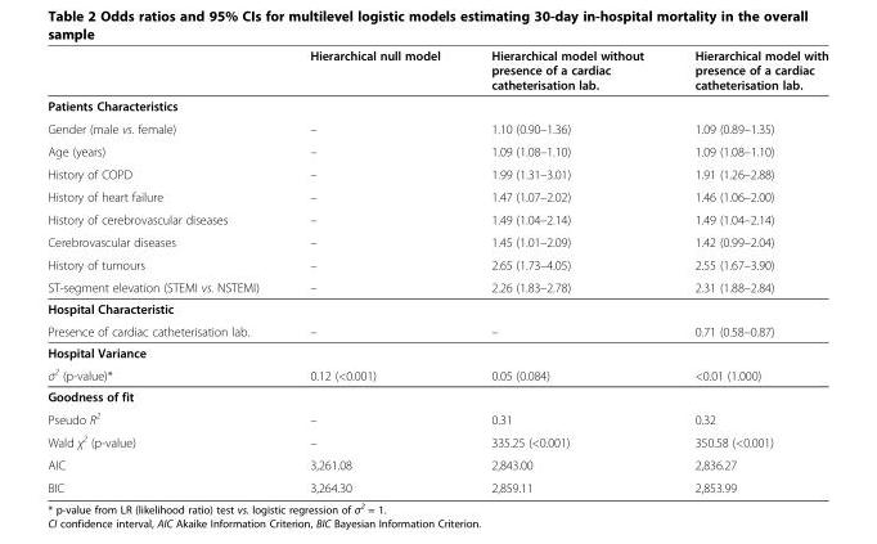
<table><thead><tr><td></td><td>Hierarchical null model</td><td>Hierarchical model without presence of a cardiac catheterisation lab.</td><td>Hierarchical model with presence of a cardiac catheterisation lab.</td></tr></thead><tbody><tr><td colspan="4">Patients Characteristics</td></tr><tr><td>Gender (male vs. female)</td><td>–</td><td>1.10 (0.90–1.36)</td><td>1.09 (0.89–1.35)</td></tr><tr><td>Age (years)</td><td>–</td><td>1.09 (1.08–1.10)</td><td>1.09 (1.08–1.10)</td></tr><tr><td>History of COPD</td><td>–</td><td>1.99 (1.31–3.01)</td><td>1.91 (1.26–2.88)</td></tr><tr><td>History of heart failure</td><td>–</td><td>1.47 (1.07–2.02)</td><td>1.46 (1.06–2.00)</td></tr><tr><td>History of cerebrovascular diseases</td><td>–</td><td>1.49 (1.04–2.14)</td><td>1.49 (1.04–2.14)</td></tr><tr><td>Cerebrovascular diseases</td><td>–</td><td>1.45 (1.01–2.09)</td><td>1.42 (0.99–2.04)</td></tr><tr><td>History of tumours</td><td>–</td><td>2.65 (1.73–4.05)</td><td>2.55 (1.67–3.90)</td></tr><tr><td>ST-segment elevation (STEMI vs. NSTEMI)</td><td>–</td><td>2.26 (1.83–2.78)</td><td>2.31 (1.88–2.84)</td></tr><tr><td colspan="4">Hospital Characteristic</td></tr><tr><td>Presence of cardiac catheterisation lab.</td><td>–</td><td>–</td><td>0.71 (0.58–0.87)</td></tr><tr><td colspan="4">Hospital Variance</td></tr><tr><td>σ<sup>2</sup> (p-value)*</td><td>0.12 (&lt;0.001)</td><td>0.05 (0.084)</td><td>&lt;0.01 (1.000)</td></tr><tr><td colspan="4">Goodness of fit</td></tr><tr><td>Pseudo R<sup>2</sup></td><td>–</td><td>0.31</td><td>0.32</td></tr><tr><td>Wald χ<sup>2</sup> (p-value)</td><td>–</td><td>335.25 (&lt;0.001)</td><td>350.58 (&lt;0.001)</td></tr><tr><td>AIC</td><td>3,261.08</td><td>2,843.00</td><td>2,836.27</td></tr><tr><td>BIC</td><td>3,264.30</td><td>2,859.11</td><td>2,853.99</td></tr></tbody></table>